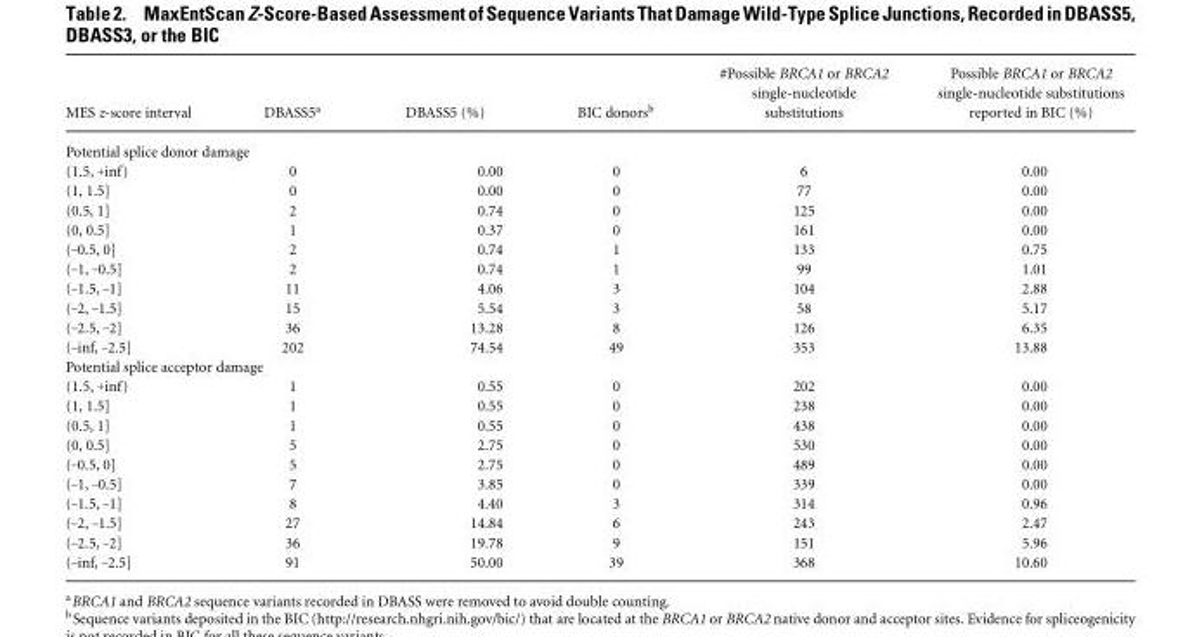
<table><thead><tr><td>MES z-score interval</td><td>DBASS5<sup>a</sup></td><td>DBASS5 (%)</td><td>BIC donors<sup>b</sup></td><td>#Possible BRCA1 or BRCA2 single-nucleotide substitutions</td><td>Possible BRCA1 or BRCA2 single-nucleotide substitutions reported in BIC (%)</td></tr></thead><tbody><tr><td colspan="6">Potential splice donor damage</td></tr><tr><td>(1.5, +inf)</td><td>0</td><td>0.00</td><td>0</td><td>6</td><td>0.00</td></tr><tr><td>(1, 1.5]</td><td>0</td><td>0.00</td><td>0</td><td>77</td><td>0.00</td></tr><tr><td>(0.5, 1]</td><td>2</td><td>0.74</td><td>0</td><td>125</td><td>0.00</td></tr><tr><td>(0, 0.5]</td><td>1</td><td>0.37</td><td>0</td><td>161</td><td>0.00</td></tr><tr><td>(–0.5, 0]</td><td>2</td><td>0.74</td><td>1</td><td>133</td><td>0.75</td></tr><tr><td>(–1, –0.5]</td><td>2</td><td>0.74</td><td>1</td><td>99</td><td>1.01</td></tr><tr><td>(–1.5, –1]</td><td>11</td><td>4.06</td><td>3</td><td>104</td><td>2.88</td></tr><tr><td>(–2, –1.5]</td><td>15</td><td>5.54</td><td>3</td><td>58</td><td>5.17</td></tr><tr><td>(–2.5, –2]</td><td>36</td><td>13.28</td><td>8</td><td>126</td><td>6.35</td></tr><tr><td>(–inf, –2.5]</td><td>202</td><td>74.54</td><td>49</td><td>353</td><td>13.88</td></tr><tr><td colspan="6">Potential splice acceptor damage</td></tr><tr><td>(1.5, +inf)</td><td>1</td><td>0.55</td><td>0</td><td>202</td><td>0.00</td></tr><tr><td>(1, 1.5]</td><td>1</td><td>0.55</td><td>0</td><td>238</td><td>0.00</td></tr><tr><td>(0.5, 1]</td><td>1</td><td>0.55</td><td>0</td><td>438</td><td>0.00</td></tr><tr><td>(0, 0.5]</td><td>5</td><td>2.75</td><td>0</td><td>530</td><td>0.00</td></tr><tr><td>(–0.5, 0]</td><td>5</td><td>2.75</td><td>0</td><td>489</td><td>0.00</td></tr><tr><td>(–1, –0.5]</td><td>7</td><td>3.85</td><td>0</td><td>339</td><td>0.00</td></tr><tr><td>(–1.5, –1]</td><td>8</td><td>4.40</td><td>3</td><td>314</td><td>0.96</td></tr><tr><td>(–2, –1.5]</td><td>27</td><td>14.84</td><td>6</td><td>243</td><td>2.47</td></tr><tr><td>(–2.5, –2]</td><td>36</td><td>19.78</td><td>9</td><td>151</td><td>5.96</td></tr><tr><td>(–inf, –2.5]</td><td>91</td><td>50.00</td><td>39</td><td>368</td><td>10.60</td></tr></tbody></table>